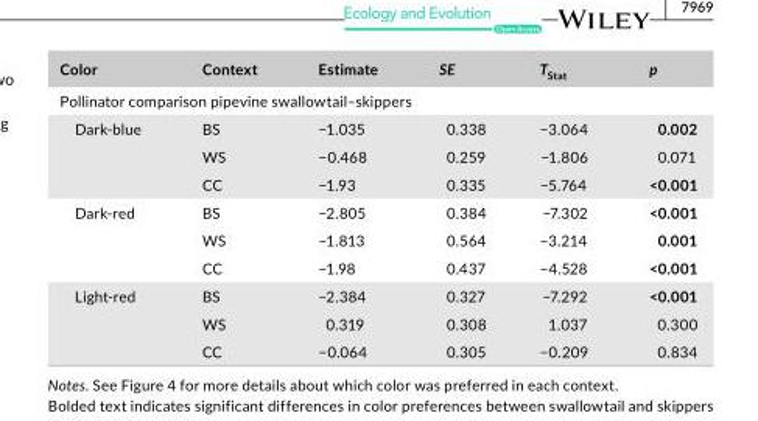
<table><thead><tr><td>Color</td><td>Context</td><td>Estimate</td><td>SE</td><td>T<sub>Stat</sub></td><td>p</td></tr></thead><tbody><tr><td colspan="6">Pollinator comparison pipevine swallowtail–skippers</td></tr><tr><td rowspan="3">Dark- blue</td><td>BS</td><td>−1.035</td><td>0.338</td><td>−3.064</td><td>0.002</td></tr><tr><td>WS</td><td>−0.468</td><td>0.259</td><td>−1.806</td><td>0.071</td></tr><tr><td>CC</td><td>−1.93</td><td>0.335</td><td>−5.764</td><td>&lt;0.001</td></tr><tr><td rowspan="3">Dark- red</td><td>BS</td><td>−2.805</td><td>0.384</td><td>−7.302</td><td>&lt;0.001</td></tr><tr><td>WS</td><td>−1.813</td><td>0.564</td><td>−3.214</td><td>0.001</td></tr><tr><td>CC</td><td>−1.98</td><td>0.437</td><td>−4.528</td><td>&lt;0.001</td></tr><tr><td rowspan="3">Light- red</td><td>BS</td><td>−2.384</td><td>0.327</td><td>−7.292</td><td>&lt;0.001</td></tr><tr><td>WS</td><td>0.319</td><td>0.308</td><td>1.037</td><td>0.300</td></tr><tr><td>CC</td><td>−0.064</td><td>0.305</td><td>−0.209</td><td>0.834</td></tr></tbody></table>